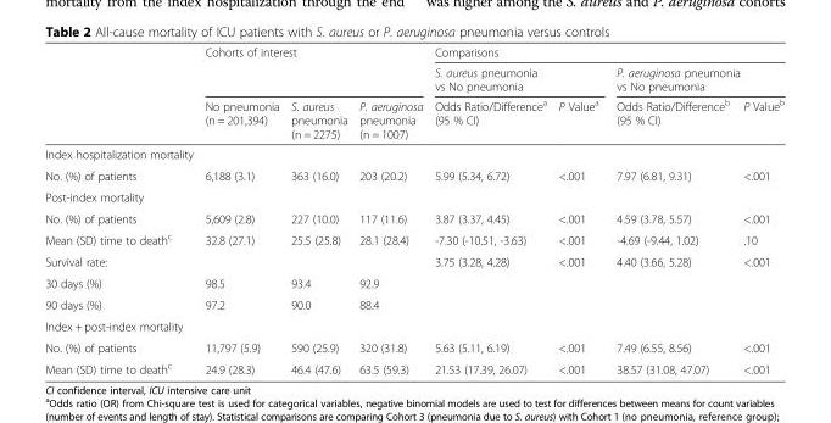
<table><thead><tr><td rowspan="3"></td><td rowspan="2" colspan="3">Cohorts of interest</td><td colspan="4">Comparisons</td></tr><tr><td colspan="2">S. aureus pneumonia vs No pneumonia</td><td colspan="2">P. aeruginosa pneumonia vs No pneumonia</td></tr><tr><td>No pneumonia (n = 201,394)</td><td>S. aureus pneumonia (n = 2275)</td><td>P. aeruginosa pneumonia (n = 1007)</td><td>Odds Ratio/Difference<sup>a</sup> (95 % CI)</td><td>P Value<sup>a</sup></td><td>Odds Ratio/Difference<sup>b</sup> (95 % CI)</td><td>P Value<sup>b</sup></td></tr></thead><tbody><tr><td colspan="8">Index hospitalization mortality</td></tr><tr><td>No. (%) of patients</td><td>6,188 (3.1)</td><td>363 (16.0)</td><td>203 (20.2)</td><td>5.99 (5.34, 6.72)</td><td>&lt;.001</td><td>7.97 (6.81, 9.31)</td><td>&lt;.001</td></tr><tr><td colspan="8">Post-index mortality</td></tr><tr><td>No. (%) of patients</td><td>5,609 (2.8)</td><td>227 (10.0)</td><td>117 (11.6)</td><td>3.87 (3.37, 4.45)</td><td>&lt;.001</td><td>4.59 (3.78, 5.57)</td><td>&lt;.001</td></tr><tr><td>Mean (SD) time to death<sup>c</sup></td><td>32.8 (27.1)</td><td>25.5 (25.8)</td><td>28.1 (28.4)</td><td>-7.30 (-10.51, -3.63)</td><td>&lt;.001</td><td>-4.69 (-9.44, 1.02)</td><td>.10</td></tr><tr><td>Survival rate:</td><td></td><td></td><td></td><td>3.75 (3.28, 4.28)</td><td>&lt;.001</td><td>4.40 (3.66, 5.28)</td><td>&lt;.001</td></tr><tr><td>30 days (%)</td><td>98.5</td><td>93.4</td><td>92.9</td><td></td><td></td><td></td><td></td></tr><tr><td>90 days (%)</td><td>97.2</td><td>90.0</td><td>88.4</td><td></td><td></td><td></td><td></td></tr><tr><td colspan="8">Index + post-index mortality</td></tr><tr><td>No. (%) of patients</td><td>11,797 (5.9)</td><td>590 (25.9)</td><td>320 (31.8)</td><td>5.63 (5.11, 6.19)</td><td>&lt;.001</td><td>7.49 (6.55, 8.56)</td><td>&lt;.001</td></tr><tr><td>Mean (SD) time to death<sup>c</sup></td><td>24.9 (28.3)</td><td>46.4 (47.6)</td><td>63.5 (59.3)</td><td>21.53 (17.39, 26.07)</td><td>&lt;.001</td><td>38.57 (31.08, 47.07)</td><td>&lt;.001</td></tr></tbody></table>